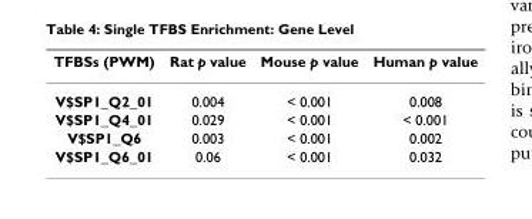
<table><thead><tr><td>TFBSs (PWM)</td><td>Rat p value</td><td>Mouse p value</td><td>Human p value</td></tr></thead><tbody><tr><td>V$SP1_Q2_01</td><td>0.004</td><td>&lt; 0.001</td><td>0.008</td></tr><tr><td>V$SP1_Q4_01</td><td>0.029</td><td>&lt; 0.001</td><td>&lt; 0.001</td></tr><tr><td>V$SP1_Q6</td><td>0.003</td><td>&lt; 0.001</td><td>0.002</td></tr><tr><td>V$SP1_Q6_01</td><td>0.06</td><td>&lt; 0.001</td><td>0.032</td></tr></tbody></table>